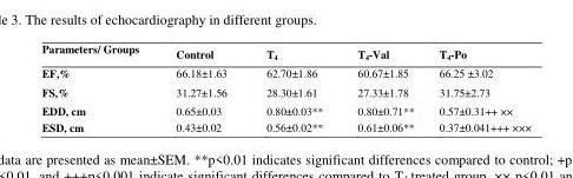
<table><thead><tr><td>Parameters/ Groups</td><td>Control</td><td>T<sub>4</sub></td><td>T<sub>4</sub>-Val</td><td>T<sub>4</sub>-Po</td></tr></thead><tbody><tr><td>EF,%</td><td>66.18±1.63</td><td>62.70±1.86</td><td>60.67±1.85</td><td>66.25 ±3.02</td></tr><tr><td>FS,%</td><td>31.27±1.56</td><td>28.30±1.61</td><td>27.33±1.78</td><td>31.75±2.73</td></tr><tr><td>EDD, cm</td><td>0.65±0.03</td><td>0.80±0.03**</td><td>0.80±0.71**</td><td>0.57±0.31++ ××</td></tr><tr><td>ESD, cm</td><td>0.43±0.02</td><td>0.56±0.02**</td><td>0.61±0.06**</td><td>0.37±0.041+++ ×××</td></tr></tbody></table>